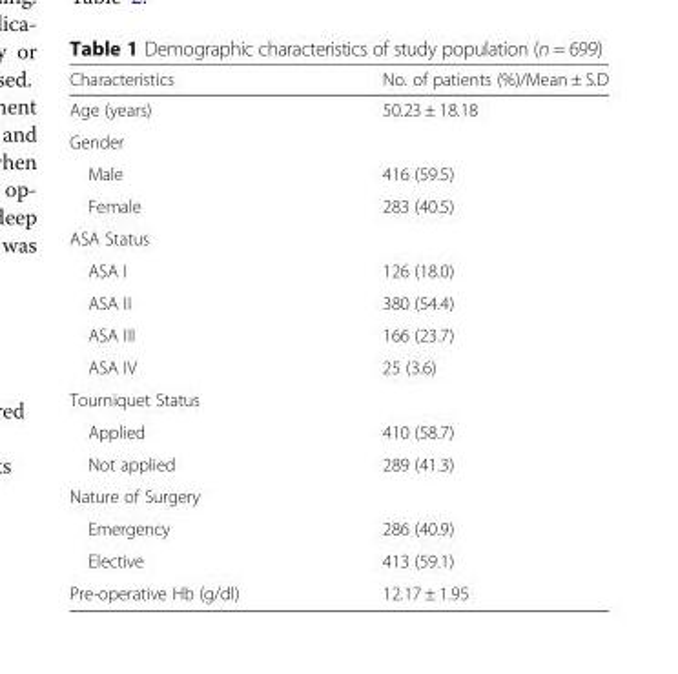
<table><thead><tr><td>Characteristics</td><td>No. of patients (%)/Mean ± S.D</td></tr></thead><tbody><tr><td>Age (years)</td><td>50.23 ± 18.18</td></tr><tr><td colspan="2">Gender</td></tr><tr><td>Male</td><td>416 (59.5)</td></tr><tr><td>Female</td><td>283 (40.5)</td></tr><tr><td colspan="2">ASA Status</td></tr><tr><td>ASA I</td><td>126 (18.0)</td></tr><tr><td>ASA II</td><td>380 (54.4)</td></tr><tr><td>ASA III</td><td>166 (23.7)</td></tr><tr><td>ASA IV</td><td>25 (3.6)</td></tr><tr><td colspan="2">Tourniquet Status</td></tr><tr><td>Applied</td><td>410 (58.7)</td></tr><tr><td>Not applied</td><td>289 (41.3)</td></tr><tr><td colspan="2">Nature of Surgery</td></tr><tr><td>Emergency</td><td>286 (40.9)</td></tr><tr><td>Elective</td><td>413 (59.1)</td></tr><tr><td>Pre-operative Hb (g/dl)</td><td>12.17 ± 1.95</td></tr></tbody></table>